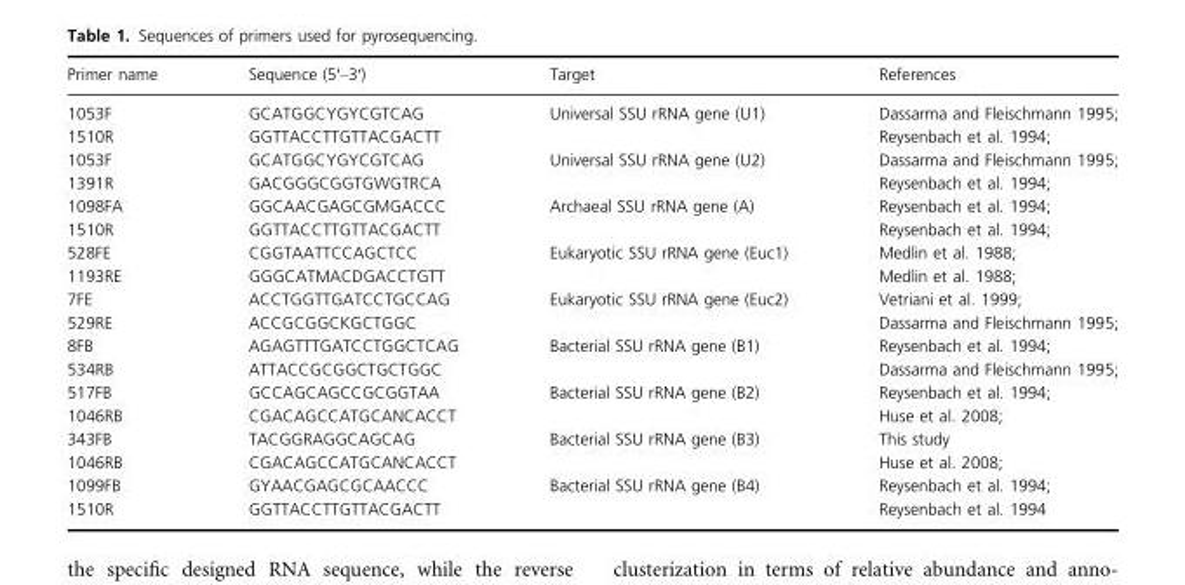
<table><thead><tr><td>Primer name</td><td>Sequence (5′–3′)</td><td>Target</td><td>References</td></tr></thead><tbody><tr><td>1053F</td><td>GCATGGCYGYCGTCAG</td><td rowspan="2">Universal SSU rRNA gene (U1)</td><td>Dassarma and Fleischmann 1995;</td></tr><tr><td>1510R</td><td>GGTTACCTTGTTACGACTT</td><td>Reysenbach et al. 1994;</td></tr><tr><td>1053F</td><td>GCATGGCYGYCGTCAG</td><td rowspan="2">Universal SSU rRNA gene (U2)</td><td>Dassarma and Fleischmann 1995;</td></tr><tr><td>1391R</td><td>GACGGGCGGTGWGTRCA</td><td>Reysenbach et al. 1994;</td></tr><tr><td>1098FA</td><td>GGCAACGAGCGMGACCC</td><td rowspan="2">Archaeal SSU rRNA gene (A)</td><td>Reysenbach et al. 1994;</td></tr><tr><td>1510R</td><td>GGTTACCTTGTTACGACTT</td><td>Reysenbach et al. 1994;</td></tr><tr><td>528FE</td><td>CGGTAATTCCAGCTCC</td><td rowspan="2">Eukaryotic SSU rRNA gene (Euc1)</td><td>Medlin et al. 1988;</td></tr><tr><td>1193RE</td><td>GGGCATMACDGACCTGTT</td><td>Medlin et al. 1988;</td></tr><tr><td>7FE</td><td>ACCTGGTTGATCCTGCCAG</td><td rowspan="2">Eukaryotic SSU rRNA gene (Euc2)</td><td>Vetriani et al. 1999;</td></tr><tr><td>529RE</td><td>ACCGCGGCKGCTGGC</td><td>Dassarma and Fleischmann 1995;</td></tr><tr><td>8FB</td><td>AGAGTTTGATCCTGGCTCAG</td><td rowspan="2">Bacterial SSU rRNA gene (B1)</td><td>Reysenbach et al. 1994;</td></tr><tr><td>534RB</td><td>ATTACCGCGGCTGCTGGC</td><td>Dassarma and Fleischmann 1995;</td></tr><tr><td>517FB</td><td>GCCAGCAGCCGCGGTAA</td><td rowspan="2">Bacterial SSU rRNA gene (B2)</td><td>Reysenbach et al. 1994;</td></tr><tr><td>1046RB</td><td>CGACAGCCATGCANCACCT</td><td>Huse et al. 2008;</td></tr><tr><td>343FB</td><td>TACGGRAGGCAGCAG</td><td rowspan="2">Bacterial SSU rRNA gene (B3)</td><td>This study</td></tr><tr><td>1046RB</td><td>CGACAGCCATGCANCACCT</td><td>Huse et al. 2008;</td></tr><tr><td>1099FB</td><td>GYAACGAGCGCAACCC</td><td rowspan="2">Bacterial SSU rRNA gene (B4)</td><td>Reysenbach et al. 1994;</td></tr><tr><td>1510R</td><td>GGTTACCTTGTTACGACTT</td><td>Reysenbach et al. 1994</td></tr></tbody></table>